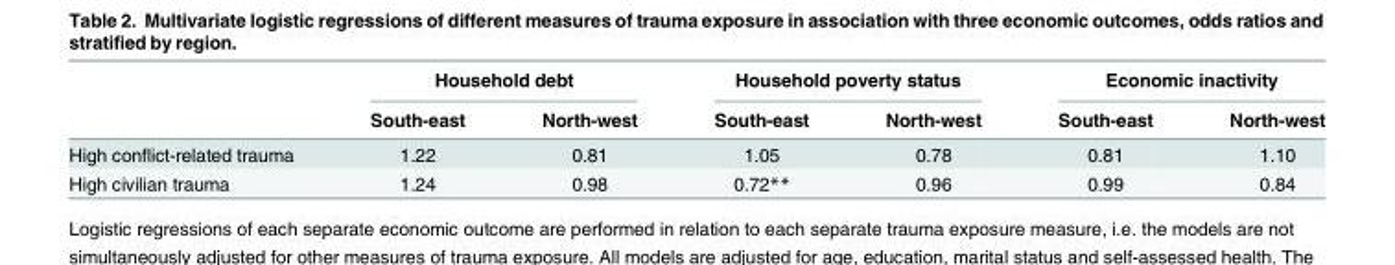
<table><thead><tr><td rowspan="2"></td><td colspan="2">Household debt</td><td colspan="2">Household poverty status</td><td colspan="2">Economic inactivity</td></tr><tr><td>South-east</td><td>North-west</td><td>South-east</td><td>North-west</td><td>South-east</td><td>North-west</td></tr></thead><tbody><tr><td>High conflict-related trauma</td><td>1.22</td><td>0.81</td><td>1.05</td><td>0.78</td><td>0.81</td><td>1.10</td></tr><tr><td>High civilian trauma</td><td>1.24</td><td>0.98</td><td>0.72**</td><td>0.96</td><td>0.99</td><td>0.84</td></tr></tbody></table>